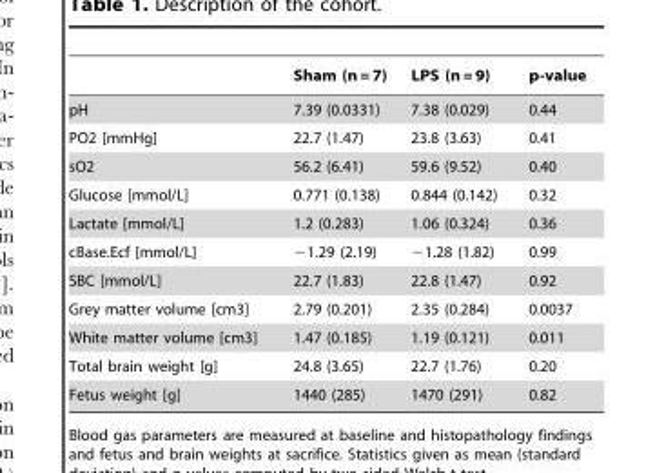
<table><thead><tr><td></td><td>Sham (n = 7)</td><td>LPS (n = 9)</td><td>p-value</td></tr></thead><tbody><tr><td>pH</td><td>7.39 (0.0331)</td><td>7.38 (0.029)</td><td>0.44</td></tr><tr><td>PO2 [mmHg]</td><td>22.7 (1.47)</td><td>23.8 (3.63)</td><td>0.41</td></tr><tr><td>sO2</td><td>56.2 (6.41)</td><td>59.6 (9.52)</td><td>0.40</td></tr><tr><td>Glucose [mmol/L]</td><td>0.771 (0.138)</td><td>0.844 (0.142)</td><td>0.32</td></tr><tr><td>Lactate [mmol/L]</td><td>1.2 (0.283)</td><td>1.06 (0.324)</td><td>0.36</td></tr><tr><td>cBase.Ecf [mmol/L]</td><td>−1.29 (2.19)</td><td>−1.28 (1.82)</td><td>0.99</td></tr><tr><td>SBC [mmol/L]</td><td>22.7 (1.83)</td><td>22.8 (1.47)</td><td>0.92</td></tr><tr><td>Grey matter volume [cm3]</td><td>2.79 (0.201)</td><td>2.35 (0.284)</td><td>0.0037</td></tr><tr><td>White matter volume [cm3]</td><td>1.47 (0.185)</td><td>1.19 (0.121)</td><td>0.011</td></tr><tr><td>Total brain weight [g]</td><td>24.8 (3.65)</td><td>22.7 (1.76)</td><td>0.20</td></tr><tr><td>Fetus weight [g]</td><td>1440 (285)</td><td>1470 (291)</td><td>0.82</td></tr></tbody></table>